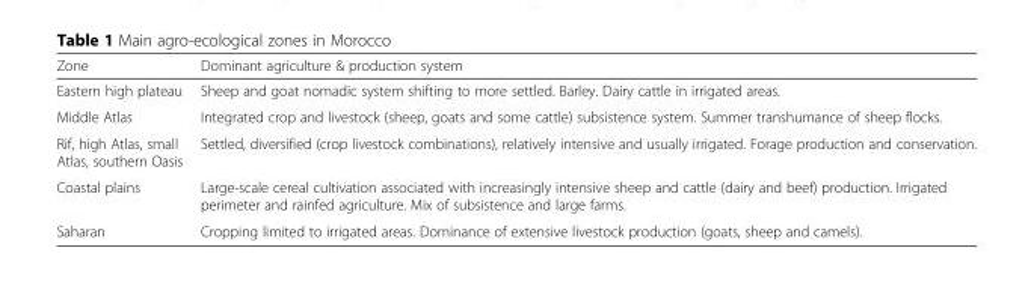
<table><thead><tr><td>Zone</td><td>Dominant agriculture &amp; production system</td></tr></thead><tbody><tr><td>Eastern high plateau</td><td>Sheep and goat nomadic system shifting to more settled. Barley. Dairy cattle in irrigated areas.</td></tr><tr><td>Middle Atlas</td><td>Integrated crop and livestock (sheep, goats and some cattle) subsistence system. Summer transhumance of sheep flocks.</td></tr><tr><td>Rif, high Atlas, small Atlas, southern Oasis</td><td>Settled, diversified (crop livestock combinations), relatively intensive and usually irrigated. Forage production and conservation.</td></tr><tr><td>Coastal plains</td><td>Large-scale cereal cultivation associated with increasingly intensive sheep and cattle (dairy and beef) production. Irrigated perimeter and rainfed agriculture. Mix of subsistence and large farms.</td></tr><tr><td>Saharan</td><td>Cropping limited to irrigated areas. Dominance of extensive livestock production (goats, sheep and camels).</td></tr></tbody></table>